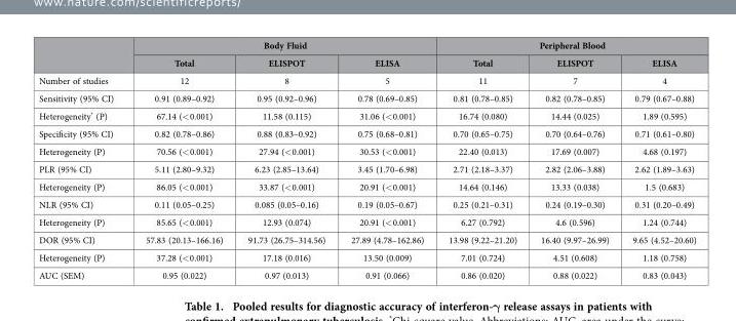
<table><thead><tr><td rowspan="2"></td><td colspan="3">Body Fluid</td><td colspan="3">Peripheral Blood</td></tr><tr><td>Total</td><td>ELISPOT</td><td>ELISA</td><td>Total</td><td>ELISPOT</td><td>ELISA</td></tr></thead><tbody><tr><td>Number of studies</td><td>12</td><td>8</td><td>5</td><td>11</td><td>7</td><td>4</td></tr><tr><td>Sensitivity (95% CI)</td><td>0.91 (0.89–0.92)</td><td>0.95 (0.92–0.96)</td><td>0.78 (0.69–0.85)</td><td>0.81 (0.78–0.85)</td><td>0.82 (0.78–0.85)</td><td>0.79 (0.67–0.88)</td></tr><tr><td>Heterogeneity* (P)</td><td>67.14 (&lt; 0.001)</td><td>11.58 (0.115)</td><td>31.06 (&lt; 0.001)</td><td>16.74 (0.080)</td><td>14.44 (0.025)</td><td>1.89 (0.595)</td></tr><tr><td>Specificity (95% CI)</td><td>0.82 (0.78–0.86)</td><td>0.88 (0.83–0.92)</td><td>0.75 (0.68–0.81)</td><td>0.70 (0.65–0.75)</td><td>0.70 (0.64–0.76)</td><td>0.71 (0.61–0.80)</td></tr><tr><td>Heterogeneity (P)</td><td>70.56 (&lt; 0.001)</td><td>27.94 (&lt; 0.001)</td><td>30.53 (&lt; 0.001)</td><td>22.40 (0.013)</td><td>17.69 (0.007)</td><td>4.68 (0.197)</td></tr><tr><td>PLR (95% CI)</td><td>5.11 (2.80–9.32)</td><td>6.23 (2.85–13.64)</td><td>3.45 (1.70–6.98)</td><td>2.71 (2.18–3.37)</td><td>2.82 (2.06–3.88)</td><td>2.62 (1.89–3.63)</td></tr><tr><td>Heterogeneity (P)</td><td>86.05 (&lt; 0.001)</td><td>33.87 (&lt; 0.001)</td><td>20.91 (&lt; 0.001)</td><td>14.64 (0.146)</td><td>13.33 (0.038)</td><td>1.5 (0.683)</td></tr><tr><td>NLR (95% CI)</td><td>0.11 (0.05–0.25)</td><td>0.085 (0.05–0.16)</td><td>0.19 (0.05–0.67)</td><td>0.25 (0.21–0.31)</td><td>0.24 (0.19–0.30)</td><td>0.31 (0.20–0.49)</td></tr><tr><td>Heterogeneity (P)</td><td>85.65 (&lt; 0.001)</td><td>12.93 (0.074)</td><td>20.91 (&lt; 0.001)</td><td>6.27 (0.792)</td><td>4.6 (0.596)</td><td>1.24 (0.744)</td></tr><tr><td>DOR (95% CI)</td><td>57.83 (20.13–166.16)</td><td>91.73 (26.75–314.56)</td><td>27.89 (4.78–162.86)</td><td>13.98 (9.22–21.20)</td><td>16.40 (9.97–26.99)</td><td>9.65 (4.52–20.60)</td></tr><tr><td>Heterogeneity (P)</td><td>37.28 (&lt; 0.001)</td><td>17.18 (0.016)</td><td>13.50 (0.009)</td><td>7.01 (0.724)</td><td>4.51 (0.608)</td><td>1.18 (0.758)</td></tr><tr><td>AUC (SEM)</td><td>0.95 (0.022)</td><td>0.97 (0.013)</td><td>0.91 (0.066)</td><td>0.86 (0.020)</td><td>0.88 (0.022)</td><td>0.83 (0.043)</td></tr></tbody></table>